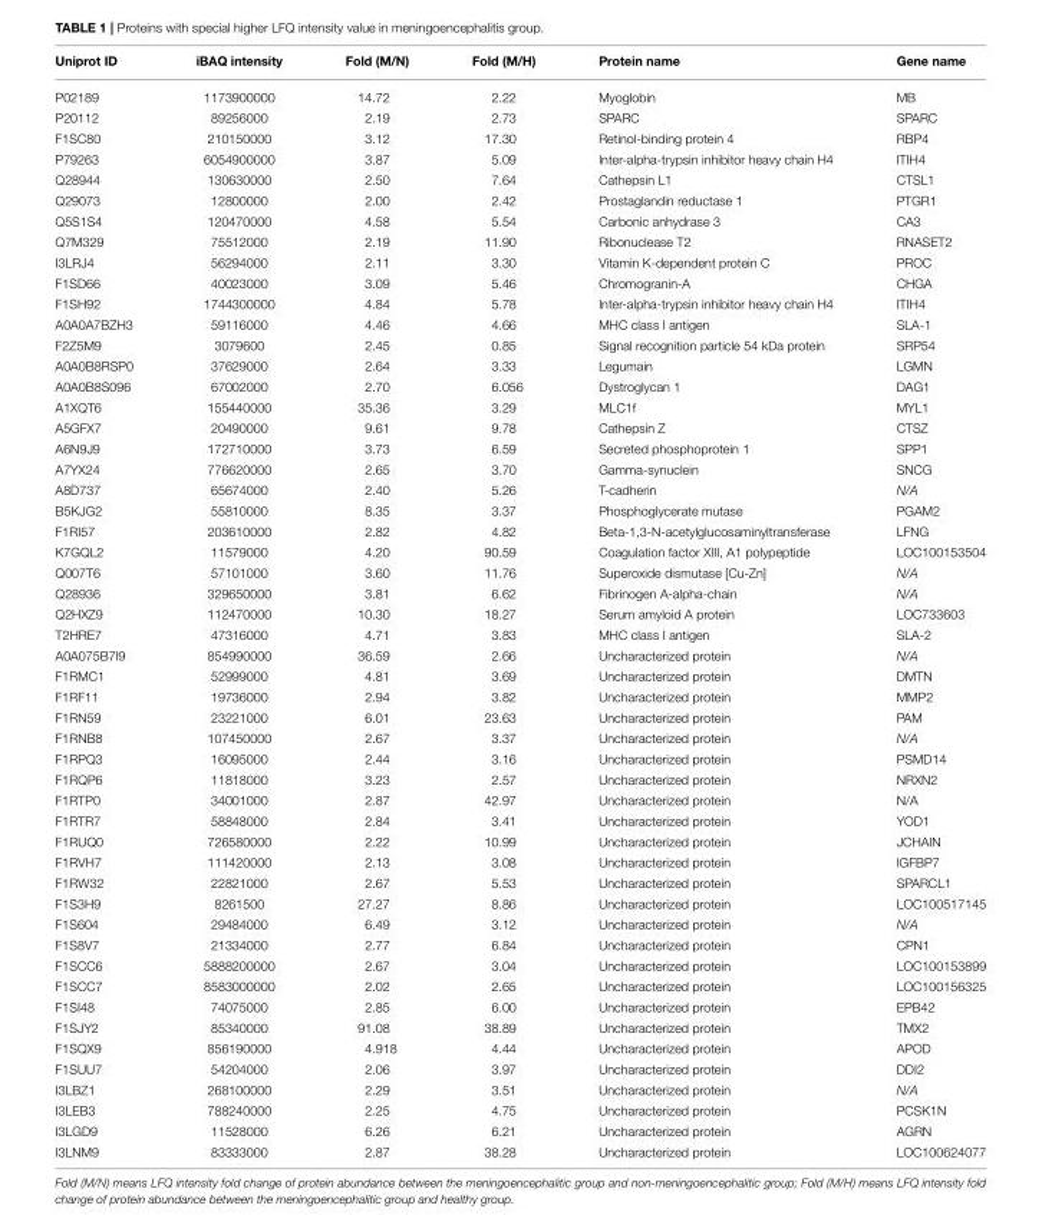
<table><thead><tr><td>Uniprot ID</td><td>iBAQ intensity</td><td>Fold (M/N)</td><td>Fold (M/H)</td><td>Protein name</td><td>Gene name</td></tr></thead><tbody><tr><td>P02189</td><td>1173900000</td><td>14.72</td><td>2.22</td><td>Myoglobin</td><td>MB</td></tr><tr><td>P20112</td><td>89256000</td><td>2.19</td><td>2.73</td><td>SPARC</td><td>SPARC</td></tr><tr><td>F1SC80</td><td>210150000</td><td>3.12</td><td>17.30</td><td>Retinol-binding protein 4</td><td>RBP4</td></tr><tr><td>P79263</td><td>6054900000</td><td>3.87</td><td>5.09</td><td>Inter-alpha-trypsin inhibitor heavy chain H4</td><td>ITIH4</td></tr><tr><td>Q28944</td><td>130630000</td><td>2.50</td><td>7.64</td><td>Cathepsin L1</td><td>CTSL1</td></tr><tr><td>Q29073</td><td>12800000</td><td>2.00</td><td>2.42</td><td>Prostaglandin reductase 1</td><td>PTGR1</td></tr><tr><td>Q5S1S4</td><td>120470000</td><td>4.58</td><td>5.54</td><td>Carbonic anhydrase 3</td><td>CA3</td></tr><tr><td>Q7M329</td><td>75512000</td><td>2.19</td><td>11.90</td><td>Ribonuclease T2</td><td>RNASET2</td></tr><tr><td>I3LRJ4</td><td>56294000</td><td>2.11</td><td>3.30</td><td>Vitamin K-dependent protein C</td><td>PROC</td></tr><tr><td>F1SD66</td><td>40023000</td><td>3.09</td><td>5.46</td><td>Chromogranin-A</td><td>CHGA</td></tr><tr><td>F1SH92</td><td>1744300000</td><td>4.84</td><td>5.78</td><td>Inter-alpha-trypsin inhibitor heavy chain H4</td><td>ITIH4</td></tr><tr><td>A0A0A7BZH3</td><td>59116000</td><td>4.46</td><td>4.66</td><td>MHC class I antigen</td><td>SLA-1</td></tr><tr><td>F2Z5M9</td><td>3079600</td><td>2.45</td><td>0.85</td><td>Signal recognition particle 54 kDa protein</td><td>SRP54</td></tr><tr><td>A0A0B8RSP0</td><td>37629000</td><td>2.64</td><td>3.33</td><td>Legumain</td><td>LGMN</td></tr><tr><td>A0A0B8S096</td><td>67002000</td><td>2.70</td><td>6.056</td><td>Dystroglycan 1</td><td>DAG1</td></tr><tr><td>A1XQT6</td><td>155440000</td><td>35.36</td><td>3.29</td><td>MLC1f</td><td>MYL1</td></tr><tr><td>A5GFX7</td><td>20490000</td><td>9.61</td><td>9.78</td><td>Cathepsin Z</td><td>CTSZ</td></tr><tr><td>A6N9J9</td><td>172710000</td><td>3.73</td><td>6.59</td><td>Secreted phosphoprotein 1</td><td>SPP1</td></tr><tr><td>A7YX24</td><td>776620000</td><td>2.65</td><td>3.70</td><td>Gamma-synuclein</td><td>SNCG</td></tr><tr><td>A8D737</td><td>65674000</td><td>2.40</td><td>5.26</td><td>T-cadherin</td><td>N/A</td></tr><tr><td>B5KJG2</td><td>55810000</td><td>8.35</td><td>3.37</td><td>Phosphoglycerate mutase</td><td>PGAM2</td></tr><tr><td>F1RI57</td><td>203610000</td><td>2.82</td><td>4.82</td><td>Beta-1,3-N-acetylglucosaminyltransferase</td><td>LFNG</td></tr><tr><td>K7GQL2</td><td>11579000</td><td>4.20</td><td>90.59</td><td>Coagulation factor XIII, A1 polypeptide</td><td>LOC100153504</td></tr><tr><td>Q007T6</td><td>57101000</td><td>3.60</td><td>11.76</td><td>Superoxide dismutase [Cu-Zn]</td><td>N/A</td></tr><tr><td>Q28936</td><td>329650000</td><td>3.81</td><td>6.62</td><td>Fibrinogen A-alpha-chain</td><td>N/A</td></tr><tr><td>Q2HXZ9</td><td>112470000</td><td>10.30</td><td>18.27</td><td>Serum amyloid A protein</td><td>LOC733603</td></tr><tr><td>T2HRE7</td><td>47316000</td><td>4.71</td><td>3.83</td><td>MHC class I antigen</td><td>SLA-2</td></tr><tr><td>A0A075B7I9</td><td>854990000</td><td>36.59</td><td>2.66</td><td>Uncharacterized protein</td><td>N/A</td></tr><tr><td>F1RMC1</td><td>52999000</td><td>4.81</td><td>3.69</td><td>Uncharacterized protein</td><td>DMTN</td></tr><tr><td>F1RF11</td><td>19736000</td><td>2.94</td><td>3.82</td><td>Uncharacterized protein</td><td>MMP2</td></tr><tr><td>F1RN59</td><td>23221000</td><td>6.01</td><td>23.63</td><td>Uncharacterized protein</td><td>PAM</td></tr><tr><td>F1RNB8</td><td>107450000</td><td>2.67</td><td>3.37</td><td>Uncharacterized protein</td><td>N/A</td></tr><tr><td>F1RPQ3</td><td>16095000</td><td>2.44</td><td>3.16</td><td>Uncharacterized protein</td><td>PSMD14</td></tr><tr><td>F1RQP6</td><td>11818000</td><td>3.23</td><td>2.57</td><td>Uncharacterized protein</td><td>NRXN2</td></tr><tr><td>F1RTP0</td><td>34001000</td><td>2.87</td><td>42.97</td><td>Uncharacterized protein</td><td>N/A</td></tr><tr><td>F1RTR7</td><td>58848000</td><td>2.84</td><td>3.41</td><td>Uncharacterized protein</td><td>YOD1</td></tr><tr><td>F1RUQ0</td><td>726580000</td><td>2.22</td><td>10.99</td><td>Uncharacterized protein</td><td>JCHAIN</td></tr><tr><td>F1RVH7</td><td>111420000</td><td>2.13</td><td>3.08</td><td>Uncharacterized protein</td><td>IGFBP7</td></tr><tr><td>F1RW32</td><td>22821000</td><td>2.67</td><td>5.53</td><td>Uncharacterized protein</td><td>SPARCL1</td></tr><tr><td>F1S3H9</td><td>8261500</td><td>27.27</td><td>8.86</td><td>Uncharacterized protein</td><td>LOC100517145</td></tr><tr><td>F1S604</td><td>29484000</td><td>6.49</td><td>3.12</td><td>Uncharacterized protein</td><td>N/A</td></tr><tr><td>F1S8V7</td><td>21334000</td><td>2.77</td><td>6.84</td><td>Uncharacterized protein</td><td>CPN1</td></tr><tr><td>F1SCC6</td><td>5888200000</td><td>2.67</td><td>3.04</td><td>Uncharacterized protein</td><td>LOC100153899</td></tr><tr><td>F1SCC7</td><td>8583000000</td><td>2.02</td><td>2.65</td><td>Uncharacterized protein</td><td>LOC100156325</td></tr><tr><td>F1SI48</td><td>74075000</td><td>2.85</td><td>6.00</td><td>Uncharacterized protein</td><td>EPB42</td></tr><tr><td>F1SJY2</td><td>85340000</td><td>91.08</td><td>38.89</td><td>Uncharacterized protein</td><td>TMX2</td></tr><tr><td>F1SQX9</td><td>856190000</td><td>4.918</td><td>4.44</td><td>Uncharacterized protein</td><td>APOD</td></tr><tr><td>F1SUU7</td><td>54204000</td><td>2.06</td><td>3.97</td><td>Uncharacterized protein</td><td>DDI2</td></tr><tr><td>I3LBZ1</td><td>268100000</td><td>2.29</td><td>3.51</td><td>Uncharacterized protein</td><td>N/A</td></tr><tr><td>I3LEB3</td><td>788240000</td><td>2.25</td><td>4.75</td><td>Uncharacterized protein</td><td>PCSK1N</td></tr><tr><td>I3LGD9</td><td>11528000</td><td>6.26</td><td>6.21</td><td>Uncharacterized protein</td><td>AGRN</td></tr><tr><td>I3LNM9</td><td>83333000</td><td>2.87</td><td>38.28</td><td>Uncharacterized protein</td><td>LOC100624077</td></tr></tbody></table>